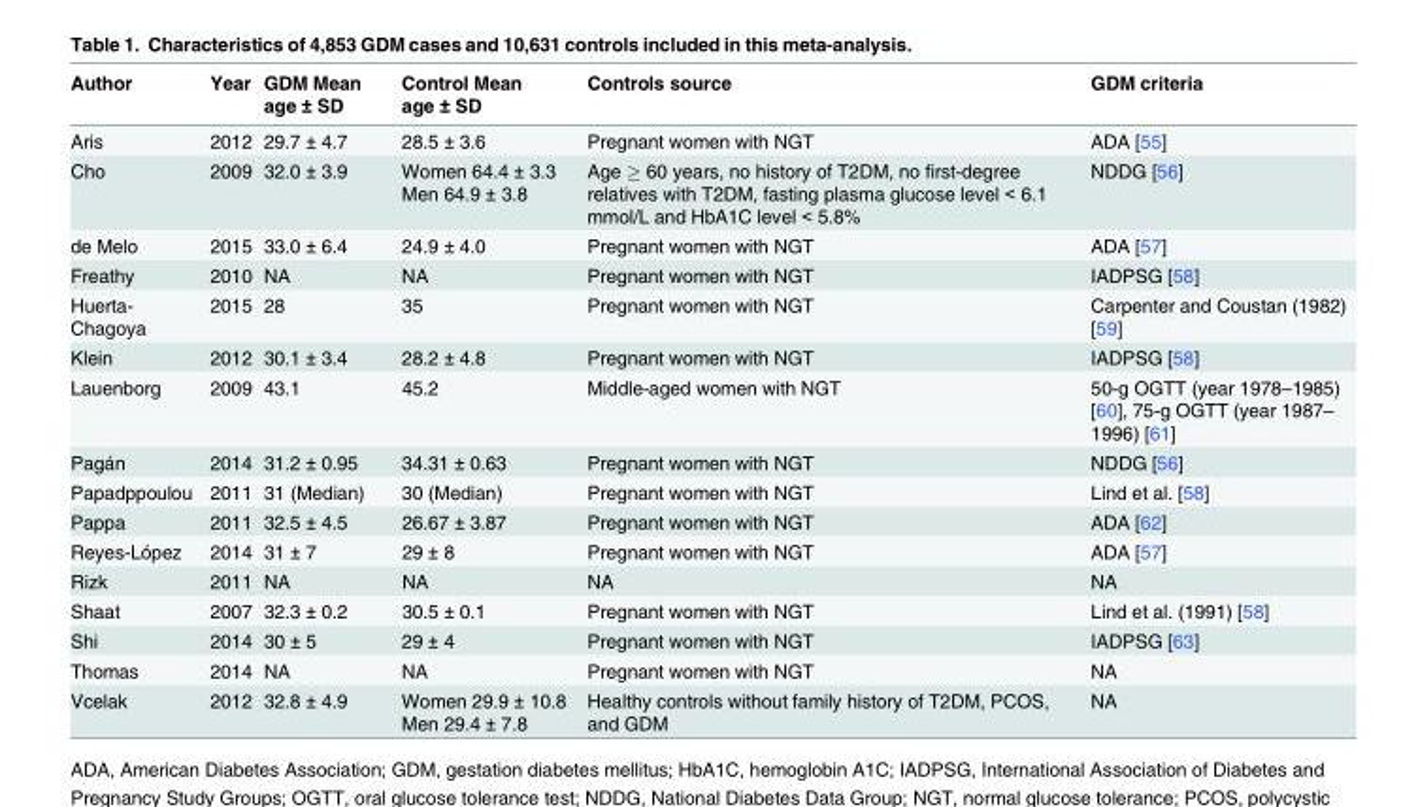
<table><thead><tr><td>Author</td><td>Year</td><td>GDM Mean age ± SD</td><td>Control Mean age ± SD</td><td>Controls source</td><td>GDM criteria</td></tr></thead><tbody><tr><td>Aris</td><td>2012</td><td>29.7 ± 4.7</td><td>28.5 ± 3.6</td><td>Pregnant women with NGT</td><td>ADA [55]</td></tr><tr><td>Cho</td><td>2009</td><td>32.0 ± 3.9</td><td>Women 64.4 ± 3.3 Men 64.9 ± 3.8</td><td>Age ≥ 60 years, no history of T2DM, no first-degree relatives with T2DM, fasting plasma glucose level &lt; 6.1 mmol/L and HbA1C level &lt; 5.8%</td><td>NDDG [56]</td></tr><tr><td>de Melo</td><td>2015</td><td>33.0 ± 6.4</td><td>24.9 ± 4.0</td><td>Pregnant women with NGT</td><td>ADA [57]</td></tr><tr><td>Freathy</td><td>2010</td><td>NA</td><td>NA</td><td>Pregnant women with NGT</td><td>IADPSG [58]</td></tr><tr><td>Huerta- Chagoya</td><td>2015</td><td>28</td><td>35</td><td>Pregnant women with NGT</td><td>Carpenter and Coustan (1982) [59]</td></tr><tr><td>Klein</td><td>2012</td><td>30.1 ± 3.4</td><td>28.2 ± 4.8</td><td>Pregnant women with NGT</td><td>IADPSG [58]</td></tr><tr><td>Lauenborg</td><td>2009</td><td>43.1</td><td>45.2</td><td>Middle-aged women with NGT</td><td>50-g OGTT (year 1978–1985) [60], 75-g OGTT (year 1987– 1996) [61]</td></tr><tr><td>Pagán</td><td>2014</td><td>31.2 ± 0.95</td><td>34.31 ± 0.63</td><td>Pregnant women with NGT</td><td>NDDG [56]</td></tr><tr><td>Papadppoulou</td><td>2011</td><td>31 (Median)</td><td>30 (Median)</td><td>Pregnant women with NGT</td><td>Lind et al. [58]</td></tr><tr><td>Pappa</td><td>2011</td><td>32.5 ± 4.5</td><td>26.67 ± 3.87</td><td>Pregnant women with NGT</td><td>ADA [62]</td></tr><tr><td>Reyes-López</td><td>2014</td><td>31 ± 7</td><td>29 ± 8</td><td>Pregnant women with NGT</td><td>ADA [57]</td></tr><tr><td>Rizk</td><td>2011</td><td>NA</td><td>NA</td><td>NA</td><td>NA</td></tr><tr><td>Shaat</td><td>2007</td><td>32.3 ± 0.2</td><td>30.5 ± 0.1</td><td>Pregnant women with NGT</td><td>Lind et al. (1991) [58]</td></tr><tr><td>Shi</td><td>2014</td><td>30 ± 5</td><td>29 ± 4</td><td>Pregnant women with NGT</td><td>IADPSG [63]</td></tr><tr><td>Thomas</td><td>2014</td><td>NA</td><td>NA</td><td>Pregnant women with NGT</td><td>NA</td></tr><tr><td>Vcelak</td><td>2012</td><td>32.8 ± 4.9</td><td>Women 29.9 ± 10.8 Men 29.4 ± 7.8</td><td>Healthy controls without family history of T2DM, PCOS, and GDM</td><td>NA</td></tr></tbody></table>